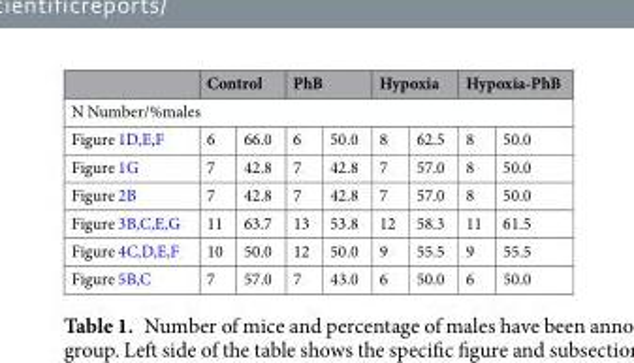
<table><thead><tr><td></td><td colspan="2">Control</td><td colspan="2">PhB</td><td colspan="2">Hypoxia</td><td colspan="2">Hypoxia-PhB</td></tr><tr><td colspan="9">N Number/%males</td></tr><tr><td>Figure 1D,E,F</td><td>6</td><td>66.0</td><td>6</td><td>50.0</td><td>8</td><td>62.5</td><td>8</td><td>50.0</td></tr></thead><tbody><tr><td>Figure 1G</td><td>7</td><td>42.8</td><td>7</td><td>42.8</td><td>7</td><td>57.0</td><td>8</td><td>50.0</td></tr><tr><td>Figure 2B</td><td>7</td><td>42.8</td><td>7</td><td>42.8</td><td>7</td><td>57.0</td><td>8</td><td>50.0</td></tr><tr><td>Figure 3B,C,E,G</td><td>11</td><td>63.7</td><td>13</td><td>53.8</td><td>12</td><td>58.3</td><td>11</td><td>61.5</td></tr><tr><td>Figure 4C,D,E,F</td><td>10</td><td>50.0</td><td>12</td><td>50.0</td><td>9</td><td>55.5</td><td>9</td><td>55.5</td></tr><tr><td>Figure 5B,C</td><td>7</td><td>57.0</td><td>7</td><td>43.0</td><td>6</td><td>50.0</td><td>6</td><td>50.0</td></tr></tbody></table>